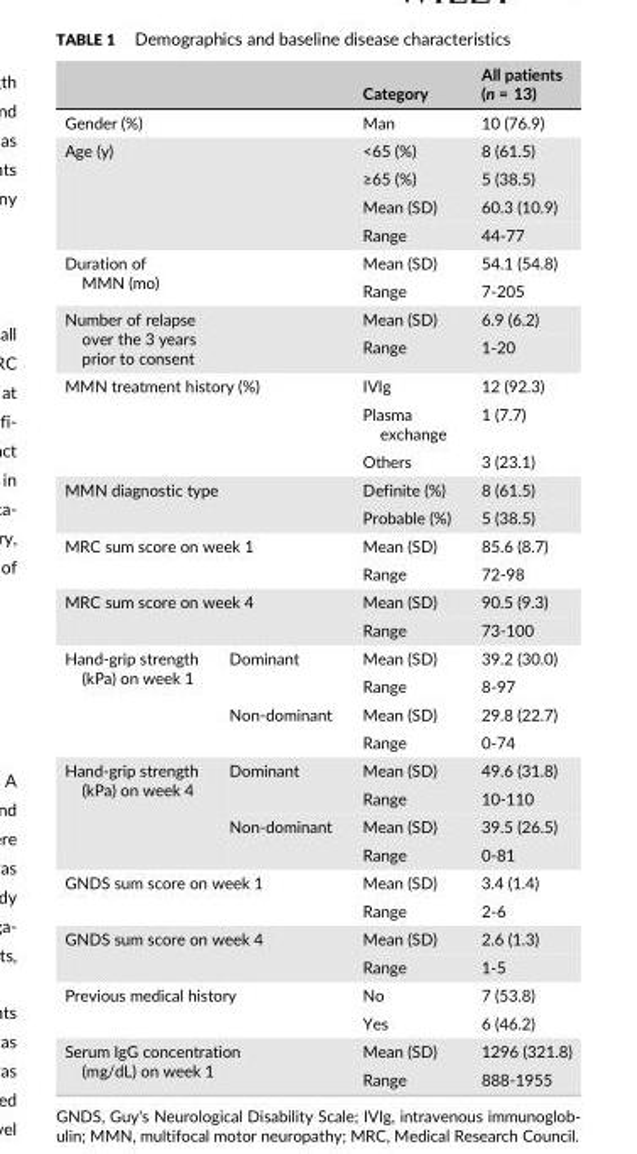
<table><thead><tr><td></td><td></td><td>Category</td><td>All patients (n = 13)</td></tr></thead><tbody><tr><td colspan="2">Gender (%)</td><td>Man</td><td>10 (76.9)</td></tr><tr><td rowspan="4" colspan="2">Age (y)</td><td>&lt;65 (%)</td><td>8 (61.5)</td></tr><tr><td>≥65 (%)</td><td>5 (38.5)</td></tr><tr><td>Mean (SD)</td><td>60.3 (10.9)</td></tr><tr><td>Range</td><td>44-77</td></tr><tr><td rowspan="2" colspan="2">Duration of MMN (mo)</td><td>Mean (SD)</td><td>54.1 (54.8)</td></tr><tr><td>Range</td><td>7-205</td></tr><tr><td rowspan="2" colspan="2">Number of relapse over the 3 years prior to consent</td><td>Mean (SD)</td><td>6.9 (6.2)</td></tr><tr><td>Range</td><td>1-20</td></tr><tr><td rowspan="3" colspan="2">MMN treatment history (%)</td><td>IVIg</td><td>12 (92.3)</td></tr><tr><td>Plasma exchange</td><td>1 (7.7)</td></tr><tr><td>Others</td><td>3 (23.1)</td></tr><tr><td rowspan="2" colspan="2">MMN diagnostic type</td><td>Definite (%)</td><td>8 (61.5)</td></tr><tr><td>Probable (%)</td><td>5 (38.5)</td></tr><tr><td rowspan="2" colspan="2">MRC sum score on week 1</td><td>Mean (SD)</td><td>85.6 (8.7)</td></tr><tr><td>Range</td><td>72-98</td></tr><tr><td rowspan="2" colspan="2">MRC sum score on week 4</td><td>Mean (SD)</td><td>90.5 (9.3)</td></tr><tr><td>Range</td><td>73-100</td></tr><tr><td rowspan="4">Hand-grip strength (kPa) on week 1</td><td rowspan="2">Dominant</td><td>Mean (SD)</td><td>39.2 (30.0)</td></tr><tr><td>Range</td><td>8-97</td></tr><tr><td rowspan="2">Non-dominant</td><td>Mean (SD)</td><td>29.8 (22.7)</td></tr><tr><td>Range</td><td>0-74</td></tr><tr><td rowspan="4">Hand-grip strength (kPa) on week 4</td><td rowspan="2">Dominant</td><td>Mean (SD)</td><td>49.6 (31.8)</td></tr><tr><td>Range</td><td>10-110</td></tr><tr><td rowspan="2">Non-dominant</td><td>Mean (SD)</td><td>39.5 (26.5)</td></tr><tr><td>Range</td><td>0-81</td></tr><tr><td rowspan="2" colspan="2">GNDS sum score on week 1</td><td>Mean (SD)</td><td>3.4 (1.4)</td></tr><tr><td>Range</td><td>2-6</td></tr><tr><td rowspan="2" colspan="2">GNDS sum score on week 4</td><td>Mean (SD)</td><td>2.6 (1.3)</td></tr><tr><td>Range</td><td>1-5</td></tr><tr><td rowspan="2" colspan="2">Previous medical history</td><td>No</td><td>7 (53.8)</td></tr><tr><td>Yes</td><td>6 (46.2)</td></tr><tr><td rowspan="2" colspan="2">Serum IgG concentration (mg/dL) on week 1</td><td>Mean (SD)</td><td>1296 (321.8)</td></tr><tr><td>Range</td><td>888-1955</td></tr></tbody></table>